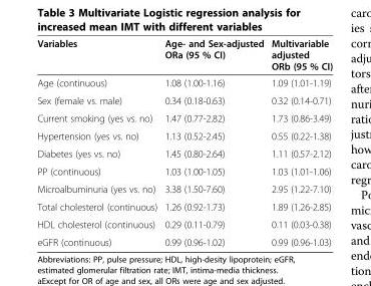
<table><thead><tr><td>Variables</td><td>Age- and Sex-adjusted ORa (95 % CI)</td><td>Multivariable adjusted ORb (95 % CI)</td></tr></thead><tbody><tr><td>Age (continuous)</td><td>1.08 (1.00-1.16)</td><td>1.09 (1.01-1.19)</td></tr><tr><td>Sex (female vs. male)</td><td>0.34 (0.18-0.63)</td><td>0.32 (0.14-0.71)</td></tr><tr><td>Current smoking (yes vs. no)</td><td>1.47 (0.77-2.82)</td><td>1.73 (0.86-3.49)</td></tr><tr><td>Hypertension (yes vs. no)</td><td>1.13 (0.52-2.45)</td><td>0.55 (0.22-1.38)</td></tr><tr><td>Diabetes (yes vs. no)</td><td>1.45 (0.80-2.64)</td><td>1.11 (0.57-2.12)</td></tr><tr><td>PP (continuous)</td><td>1.03 (1.00-1.05)</td><td>1.03 (1.01-1.06)</td></tr><tr><td>Microalbuminuria (yes vs. no)</td><td>3.38 (1.50-7.60)</td><td>2.95 (1.22-7.10)</td></tr><tr><td>Total cholesterol (continuous)</td><td>1.26 (0.92-1.73)</td><td>1.89 (1.26-2.85)</td></tr><tr><td>HDL cholesterol (continuous)</td><td>0.29 (0.11-0.79)</td><td>0.11 (0.03-0.38)</td></tr><tr><td>eGFR (continuous)</td><td>0.99 (0.96-1.02)</td><td>0.99 (0.96-1.03)</td></tr></tbody></table>